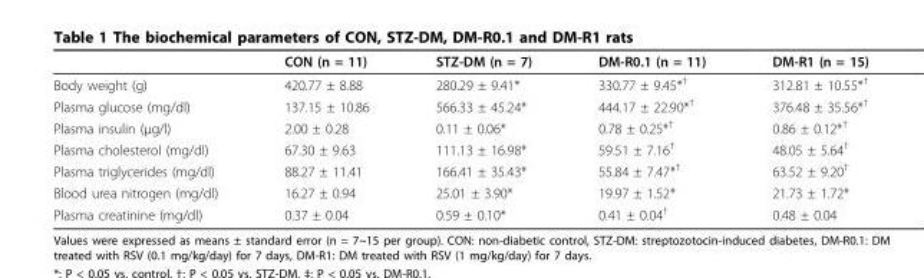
<table><thead><tr><td></td><td>CON (n = 11)</td><td>STZ-DM (n = 7)</td><td>DM-R0.1 (n = 11)</td><td>DM-R1 (n = 15)</td></tr></thead><tbody><tr><td>Body weight (g)</td><td>420.77 ± 8.88</td><td>280.29 ± 9.41*</td><td>330.77 ± 9.45*<sup>†</sup></td><td>312.81 ± 10.55*<sup>†</sup></td></tr><tr><td>Plasma glucose (mg/dl)</td><td>137.15 ± 10.86</td><td>566.33 ± 45.24*</td><td>444.17 ± 22.90*<sup>†</sup></td><td>376.48 ± 35.56*<sup>†</sup></td></tr><tr><td>Plasma insulin (μg/l)</td><td>2.00 ± 0.28</td><td>0.11 ± 0.06*</td><td>0.78 ± 0.25*<sup>†</sup></td><td>0.86 ± 0.12*<sup>†</sup></td></tr><tr><td>Plasma cholesterol (mg/dl)</td><td>67.30 ± 9.63</td><td>111.13 ± 16.98*</td><td>59.51 ± 7.16<sup>†</sup></td><td>48.05 ± 5.64<sup>†</sup></td></tr><tr><td>Plasma triglycerides (mg/dl)</td><td>88.27 ± 11.41</td><td>166.41 ± 35.43*</td><td>55.84 ± 7.47*<sup>†</sup></td><td>63.52 ± 9.20<sup>†</sup></td></tr><tr><td>Blood urea nitrogen (mg/dl)</td><td>16.27 ± 0.94</td><td>25.01 ± 3.90*</td><td>19.97 ± 1.52*</td><td>21.73 ± 1.72*</td></tr><tr><td>Plasma creatinine (mg/dl)</td><td>0.37 ± 0.04</td><td>0.59 ± 0.10*</td><td>0.41 ± 0.04<sup>†</sup></td><td>0.48 ± 0.04</td></tr></tbody></table>